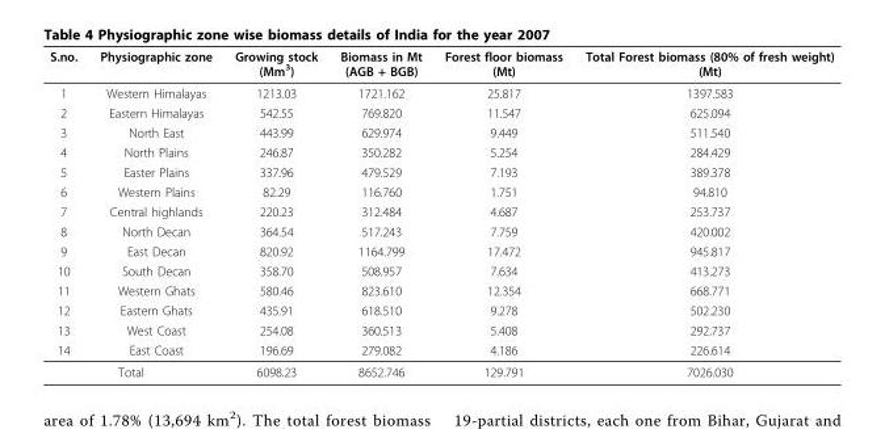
<table><thead><tr><td>S.no.</td><td>Physiographic zone</td><td>Growing stock (Mm<sup>3</sup>)</td><td>Biomass in Mt (AGB + BGB)</td><td>Forest floor biomass (Mt)</td><td>Total Forest biomass (80% of fresh weight) (Mt)</td></tr></thead><tbody><tr><td>1</td><td>Western Himalayas</td><td>1213.03</td><td>1721.162</td><td>25.817</td><td>1397.583</td></tr><tr><td>2</td><td>Eastern Himalayas</td><td>542.55</td><td>769.820</td><td>11.547</td><td>625.094</td></tr><tr><td>3</td><td>North East</td><td>443.99</td><td>629.974</td><td>9.449</td><td>511.540</td></tr><tr><td>4</td><td>North Plains</td><td>246.87</td><td>350.282</td><td>5.254</td><td>284.429</td></tr><tr><td>5</td><td>Easter Plains</td><td>337.96</td><td>479.529</td><td>7.193</td><td>389.378</td></tr><tr><td>6</td><td>Western Plains</td><td>82.29</td><td>116.760</td><td>1.751</td><td>94.810</td></tr><tr><td>7</td><td>Central highlands</td><td>220.23</td><td>312.484</td><td>4.687</td><td>253.737</td></tr><tr><td>8</td><td>North Decan</td><td>364.54</td><td>517.243</td><td>7.759</td><td>420.002</td></tr><tr><td>9</td><td>East Decan</td><td>820.92</td><td>1164.799</td><td>17.472</td><td>945.817</td></tr><tr><td>10</td><td>South Decan</td><td>358.70</td><td>508.957</td><td>7.634</td><td>413.273</td></tr><tr><td>11</td><td>Western Ghats</td><td>580.46</td><td>823.610</td><td>12.354</td><td>668.771</td></tr><tr><td>12</td><td>Eastern Ghats</td><td>435.91</td><td>618.510</td><td>9.278</td><td>502.230</td></tr><tr><td>13</td><td>West Coast</td><td>254.08</td><td>360.513</td><td>5.408</td><td>292.737</td></tr><tr><td>14</td><td>East Coast</td><td>196.69</td><td>279.082</td><td>4.186</td><td>226.614</td></tr><tr><td colspan="2">Total</td><td>6098.23</td><td>8652.746</td><td>129.791</td><td>7026.030</td></tr></tbody></table>